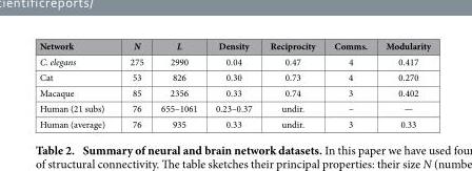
<table><thead><tr><td>Network</td><td>N</td><td>L</td><td>Density</td><td>Reciprocity</td><td>Comms.</td><td>Modularity</td></tr></thead><tbody><tr><td>C. elegans</td><td>275</td><td>2990</td><td>0.04</td><td>0.47</td><td>4</td><td>0.417</td></tr><tr><td>Cat</td><td>53</td><td>826</td><td>0.30</td><td>0.73</td><td>4</td><td>0.270</td></tr><tr><td>Macaque</td><td>85</td><td>2356</td><td>0.33</td><td>0.74</td><td>3</td><td>0.402</td></tr><tr><td>Human (21 subs)</td><td>76</td><td>655–1061</td><td>0.23–0.37</td><td>undir.</td><td>–</td><td>—</td></tr><tr><td>Human (average)</td><td>76</td><td>935</td><td>0.33</td><td>undir.</td><td>3</td><td>0.33</td></tr></tbody></table>